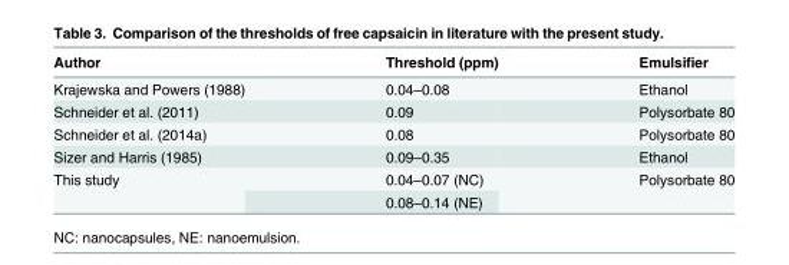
<table><thead><tr><td>Author</td><td>Threshold (ppm)</td><td>Emulsifier</td></tr></thead><tbody><tr><td>Krajewska and Powers (1988)</td><td>0.04–0.08</td><td>Ethanol</td></tr><tr><td>Schneider et al. (2011)</td><td>0.09</td><td>Polysorbate 80</td></tr><tr><td>Schneider et al. (2014a)</td><td>0.08</td><td>Polysorbate 80</td></tr><tr><td>Sizer and Harris (1985)</td><td>0.09–0.35</td><td>Ethanol</td></tr><tr><td rowspan="2">This study</td><td>0.04–0.07 (NC)</td><td rowspan="2">Polysorbate 80</td></tr><tr><td>0.08–0.14 (NE)</td></tr></tbody></table>